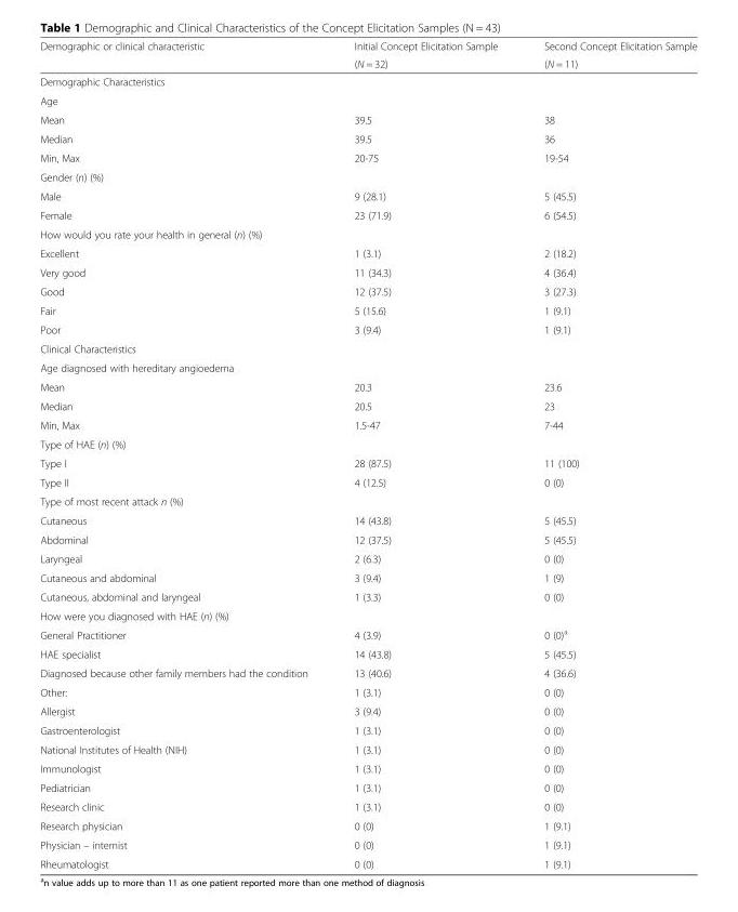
<table><thead><tr><td rowspan="2">Demographic or clinical characteristic</td><td rowspan="2">Initial Concept Elicitation Sample (N = 32)</td><td rowspan="2">Second Concept Elicitation Sample (N = 11)</td></tr><tr></tr></thead><tbody><tr><td colspan="3">Demographic Characteristics</td></tr><tr><td colspan="3">Age</td></tr><tr><td>Mean</td><td>39.5</td><td>38</td></tr><tr><td>Median</td><td>39.5</td><td>36</td></tr><tr><td>Min, Max</td><td>20-75</td><td>19-54</td></tr><tr><td colspan="3">Gender (n) (%)</td></tr><tr><td>Male</td><td>9 (28.1)</td><td>5 (45.5)</td></tr><tr><td>Female</td><td>23 (71.9)</td><td>6 (54.5)</td></tr><tr><td colspan="3">How would you rate your health in general (n) (%)</td></tr><tr><td>Excellent</td><td>1 (3.1)</td><td>2 (18.2)</td></tr><tr><td>Very good</td><td>11 (34.3)</td><td>4 (36.4)</td></tr><tr><td>Good</td><td>12 (37.5)</td><td>3 (27.3)</td></tr><tr><td>Fair</td><td>5 (15.6)</td><td>1 (9.1)</td></tr><tr><td>Poor</td><td>3 (9.4)</td><td>1 (9.1)</td></tr><tr><td colspan="3">Clinical Characteristics</td></tr><tr><td colspan="3">Age diagnosed with hereditary angioedema</td></tr><tr><td>Mean</td><td>20.3</td><td>23.6</td></tr><tr><td>Median</td><td>20.5</td><td>23</td></tr><tr><td>Min, Max</td><td>1.5-47</td><td>7-44</td></tr><tr><td colspan="3">Type of HAE (n) (%)</td></tr><tr><td>Type I</td><td>28 (87.5)</td><td>11 (100)</td></tr><tr><td>Type II</td><td>4 (12.5)</td><td>0 (0)</td></tr><tr><td colspan="3">Type of most recent attack n (%)</td></tr><tr><td>Cutaneous</td><td>14 (43.8)</td><td>5 (45.5)</td></tr><tr><td>Abdominal</td><td>12 (37.5)</td><td>5 (45.5)</td></tr><tr><td>Laryngeal</td><td>2 (6.3)</td><td>0 (0)</td></tr><tr><td>Cutaneous and abdominal</td><td>3 (9.4)</td><td>1 (9)</td></tr><tr><td>Cutaneous, abdominal and laryngeal</td><td>1 (3.3)</td><td>0 (0)</td></tr><tr><td colspan="3">How were you diagnosed with HAE (n) (%)</td></tr><tr><td>General Practitioner</td><td>4 (3.9)</td><td>0 (0)<sup>a</sup></td></tr><tr><td>HAE specialist</td><td>14 (43.8)</td><td>5 (45.5)</td></tr><tr><td>Diagnosed because other family members had the condition</td><td>13 (40.6)</td><td>4 (36.6)</td></tr><tr><td>Other:</td><td>1 (3.1)</td><td>0 (0)</td></tr><tr><td>Allergist</td><td>3 (9.4)</td><td>0 (0)</td></tr><tr><td>Gastroenterologist</td><td>1 (3.1)</td><td>0 (0)</td></tr><tr><td>National Institutes of Health (NIH)</td><td>1 (3.1)</td><td>0 (0)</td></tr><tr><td>Immunologist</td><td>1 (3.1)</td><td>0 (0)</td></tr><tr><td>Pediatrician</td><td>1 (3.1)</td><td>0 (0)</td></tr><tr><td>Research clinic</td><td>1 (3.1)</td><td>0 (0)</td></tr><tr><td>Research physician</td><td>0 (0)</td><td>1 (9.1)</td></tr><tr><td>Physician – internist</td><td>0 (0)</td><td>1 (9.1)</td></tr><tr><td>Rheumatologist</td><td>0 (0)</td><td>1 (9.1)</td></tr></tbody></table>